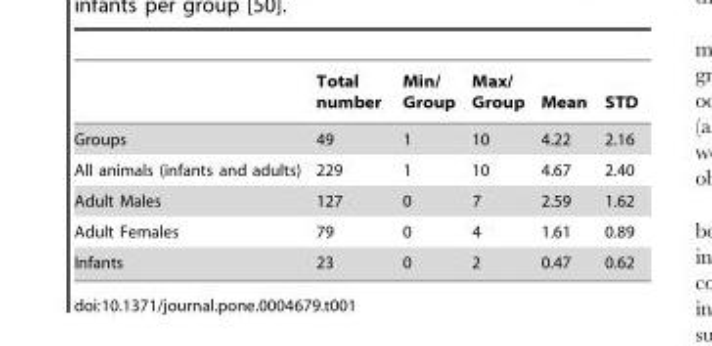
<table><thead><tr><td></td><td>Total number</td><td>Min/ Group</td><td>Max/ Group</td><td>Mean</td><td>STD</td></tr></thead><tbody><tr><td>Groups</td><td>49</td><td>1</td><td>10</td><td>4.22</td><td>2.16</td></tr><tr><td>All animals (infants and adults)</td><td>229</td><td>1</td><td>10</td><td>4.67</td><td>2.40</td></tr><tr><td>Adult Males</td><td>127</td><td>0</td><td>7</td><td>2.59</td><td>1.62</td></tr><tr><td>Adult Females</td><td>79</td><td>0</td><td>4</td><td>1.61</td><td>0.89</td></tr><tr><td>Infants</td><td>23</td><td>0</td><td>2</td><td>0.47</td><td>0.62</td></tr></tbody></table>